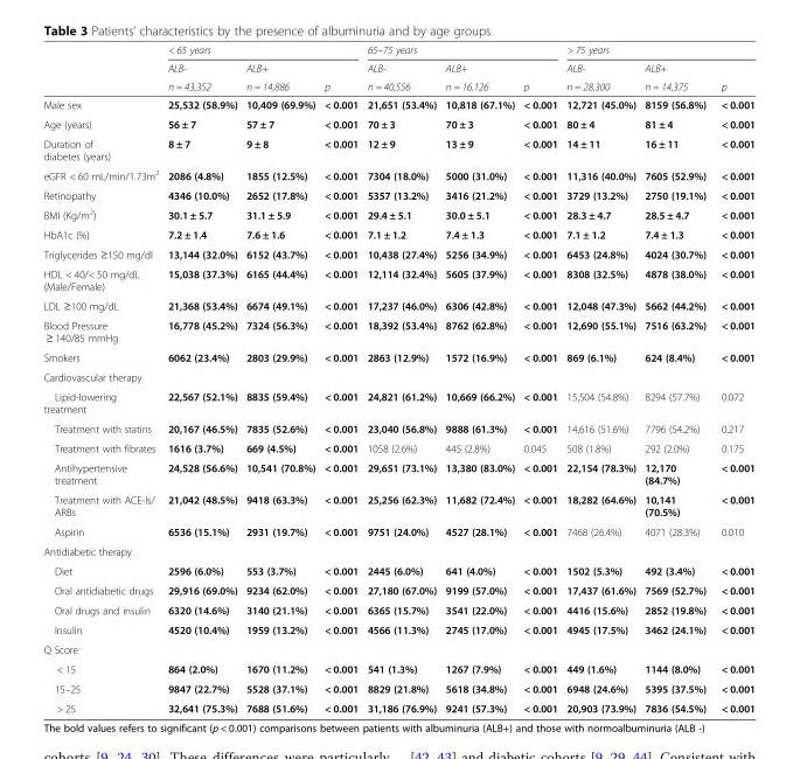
<table><thead><tr><td rowspan="3"></td><td colspan="3">&lt; 65 years</td><td colspan="3">65–75 years</td><td colspan="3">&gt; 75 years</td></tr><tr><td rowspan="2">ALB- n = 43,352</td><td rowspan="2">ALB+ n = 14,886</td><td rowspan="2">p</td><td rowspan="2">ALB- n = 40,556</td><td rowspan="2">ALB+ n = 16,126</td><td rowspan="2">p</td><td rowspan="2">ALB- n = 28,300</td><td rowspan="2">ALB+ n = 14,375</td><td rowspan="2">p</td></tr><tr></tr></thead><tbody><tr><td>Male sex</td><td>25,532 (58.9%)</td><td>10,409 (69.9%)</td><td>&lt; 0.001</td><td>21,651 (53.4%)</td><td>10,818 (67.1%)</td><td>&lt; 0.001</td><td>12,721 (45.0%)</td><td>8159 (56.8%)</td><td>&lt; 0.001</td></tr><tr><td>Age (years)</td><td>56 ± 7</td><td>57 ± 7</td><td>&lt; 0.001</td><td>70 ± 3</td><td>70 ± 3</td><td>&lt; 0.001</td><td>80 ± 4</td><td>81 ± 4</td><td>&lt; 0.001</td></tr><tr><td>Duration of diabetes (years)</td><td>8 ± 7</td><td>9 ± 8</td><td>&lt; 0.001</td><td>12 ± 9</td><td>13 ± 9</td><td>&lt; 0.001</td><td>14 ± 11</td><td>16 ± 11</td><td>&lt; 0.001</td></tr><tr><td>eGFR &lt; 60 mL/min/1.73m<sup>2</sup></td><td>2086 (4.8%)</td><td>1855 (12.5%)</td><td>&lt; 0.001</td><td>7304 (18.0%)</td><td>5000 (31.0%)</td><td>&lt; 0.001</td><td>11,316 (40.0%)</td><td>7605 (52.9%)</td><td>&lt; 0.001</td></tr><tr><td>Retinopathy</td><td>4346 (10.0%)</td><td>2652 (17.8%)</td><td>&lt; 0.001</td><td>5357 (13.2%)</td><td>3416 (21.2%)</td><td>&lt; 0.001</td><td>3729 (13.2%)</td><td>2750 (19.1%)</td><td>&lt; 0.001</td></tr><tr><td>BMI (Kg/m<sup>2</sup>)</td><td>30.1 ± 5.7</td><td>31.1 ± 5.9</td><td>&lt; 0.001</td><td>29.4 ± 5.1</td><td>30.0 ± 5.1</td><td>&lt; 0.001</td><td>28.3 ± 4.7</td><td>28.5 ± 4.7</td><td>&lt; 0.001</td></tr><tr><td>HbA1c (%)</td><td>7.2 ± 1.4</td><td>7.6 ± 1.6</td><td>&lt; 0.001</td><td>7.1 ± 1.2</td><td>7.4 ± 1.3</td><td>&lt; 0.001</td><td>7.1 ± 1.2</td><td>7.4 ± 1.3</td><td>&lt; 0.001</td></tr><tr><td>Triglycerides ≥150 mg/dl</td><td>13,144 (32.0%)</td><td>6152 (43.7%)</td><td>&lt; 0.001</td><td>10,438 (27.4%)</td><td>5256 (34.9%)</td><td>&lt; 0.001</td><td>6453 (24.8%)</td><td>4024 (30.7%)</td><td>&lt; 0.001</td></tr><tr><td>HDL &lt; 40/&lt; 50 mg/dL (Male/Female)</td><td>15,038 (37.3%)</td><td>6165 (44.4%)</td><td>&lt; 0.001</td><td>12,114 (32.4%)</td><td>5605 (37.9%)</td><td>&lt; 0.001</td><td>8308 (32.5%)</td><td>4878 (38.0%)</td><td>&lt; 0.001</td></tr><tr><td>LDL ≥100 mg/dL</td><td>21,368 (53.4%)</td><td>6674 (49.1%)</td><td>&lt; 0.001</td><td>17,237 (46.0%)</td><td>6306 (42.8%)</td><td>&lt; 0.001</td><td>12,048 (47.3%)</td><td>5662 (44.2%)</td><td>&lt; 0.001</td></tr><tr><td>Blood Pressure ≥ 140/85 mmHg</td><td>16,778 (45.2%)</td><td>7324 (56.3%)</td><td>&lt; 0.001</td><td>18,392 (53.4%)</td><td>8762 (62.8%)</td><td>&lt; 0.001</td><td>12,690 (55.1%)</td><td>7516 (63.2%)</td><td>&lt; 0.001</td></tr><tr><td>Smokers</td><td>6062 (23.4%)</td><td>2803 (29.9%)</td><td>&lt; 0.001</td><td>2863 (12.9%)</td><td>1572 (16.9%)</td><td>&lt; 0.001</td><td>869 (6.1%)</td><td>624 (8.4%)</td><td>&lt; 0.001</td></tr><tr><td colspan="10">Cardiovascular therapy</td></tr><tr><td>Lipid-lowering treatment</td><td>22,567 (52.1%)</td><td>8835 (59.4%)</td><td>&lt; 0.001</td><td>24,821 (61.2%)</td><td>10,669 (66.2%)</td><td>&lt; 0.001</td><td>15,504 (54.8%)</td><td>8294 (57.7%)</td><td>0.072</td></tr><tr><td>Treatment with statins</td><td>20,167 (46.5%)</td><td>7835 (52.6%)</td><td>&lt; 0.001</td><td>23,040 (56.8%)</td><td>9888 (61.3%)</td><td>&lt; 0.001</td><td>14,616 (51.6%)</td><td>7796 (54.2%)</td><td>0.217</td></tr><tr><td>Treatment with fibrates</td><td>1616 (3.7%)</td><td>669 (4.5%)</td><td>&lt; 0.001</td><td>1058 (2.6%)</td><td>445 (2.8%)</td><td>0.045</td><td>508 (1.8%)</td><td>292 (2.0%)</td><td>0.175</td></tr><tr><td>Antihypertensive treatment</td><td>24,528 (56.6%)</td><td>10,541 (70.8%)</td><td>&lt; 0.001</td><td>29,651 (73.1%)</td><td>13,380 (83.0%)</td><td>&lt; 0.001</td><td>22,154 (78.3%)</td><td>12,170 (84.7%)</td><td>&lt; 0.001</td></tr><tr><td>Treatment with ACE-Is/ ARBs</td><td>21,042 (48.5%)</td><td>9418 (63.3%)</td><td>&lt; 0.001</td><td>25,256 (62.3%)</td><td>11,682 (72.4%)</td><td>&lt; 0.001</td><td>18,282 (64.6%)</td><td>10,141 (70.5%)</td><td>&lt; 0.001</td></tr><tr><td>Aspirin</td><td>6536 (15.1%)</td><td>2931 (19.7%)</td><td>&lt; 0.001</td><td>9751 (24.0%)</td><td>4527 (28.1%)</td><td>&lt; 0.001</td><td>7468 (26.4%)</td><td>4071 (28.3%)</td><td>0.010</td></tr><tr><td colspan="10">Antidiabetic therapy</td></tr><tr><td>Diet</td><td>2596 (6.0%)</td><td>553 (3.7%)</td><td>&lt; 0.001</td><td>2445 (6.0%)</td><td>641 (4.0%)</td><td>&lt; 0.001</td><td>1502 (5.3%)</td><td>492 (3.4%)</td><td>&lt; 0.001</td></tr><tr><td>Oral antidiabetic drugs</td><td>29,916 (69.0%)</td><td>9234 (62.0%)</td><td>&lt; 0.001</td><td>27,180 (67.0%)</td><td>9199 (57.0%)</td><td>&lt; 0.001</td><td>17,437 (61.6%)</td><td>7569 (52.7%)</td><td>&lt; 0.001</td></tr><tr><td>Oral drugs and insulin</td><td>6320 (14.6%)</td><td>3140 (21.1%)</td><td>&lt; 0.001</td><td>6365 (15.7%)</td><td>3541 (22.0%)</td><td>&lt; 0.001</td><td>4416 (15.6%)</td><td>2852 (19.8%)</td><td>&lt; 0.001</td></tr><tr><td>Insulin</td><td>4520 (10.4%)</td><td>1959 (13.2%)</td><td>&lt; 0.001</td><td>4566 (11.3%)</td><td>2745 (17.0%)</td><td>&lt; 0.001</td><td>4945 (17.5%)</td><td>3462 (24.1%)</td><td>&lt; 0.001</td></tr><tr><td colspan="10">Q Score</td></tr><tr><td>&lt; 15</td><td>864 (2.0%)</td><td>1670 (11.2%)</td><td>&lt; 0.001</td><td>541 (1.3%)</td><td>1267 (7.9%)</td><td>&lt; 0.001</td><td>449 (1.6%)</td><td>1144 (8.0%)</td><td>&lt; 0.001</td></tr><tr><td>15–25</td><td>9847 (22.7%)</td><td>5528 (37.1%)</td><td>&lt; 0.001</td><td>8829 (21.8%)</td><td>5618 (34.8%)</td><td>&lt; 0.001</td><td>6948 (24.6%)</td><td>5395 (37.5%)</td><td>&lt; 0.001</td></tr><tr><td>&gt; 25</td><td>32,641 (75.3%)</td><td>7688 (51.6%)</td><td>&lt; 0.001</td><td>31,186 (76.9%)</td><td>9241 (57.3%)</td><td>&lt; 0.001</td><td>20,903 (73.9%)</td><td>7836 (54.5%)</td><td>&lt; 0.001</td></tr></tbody></table>